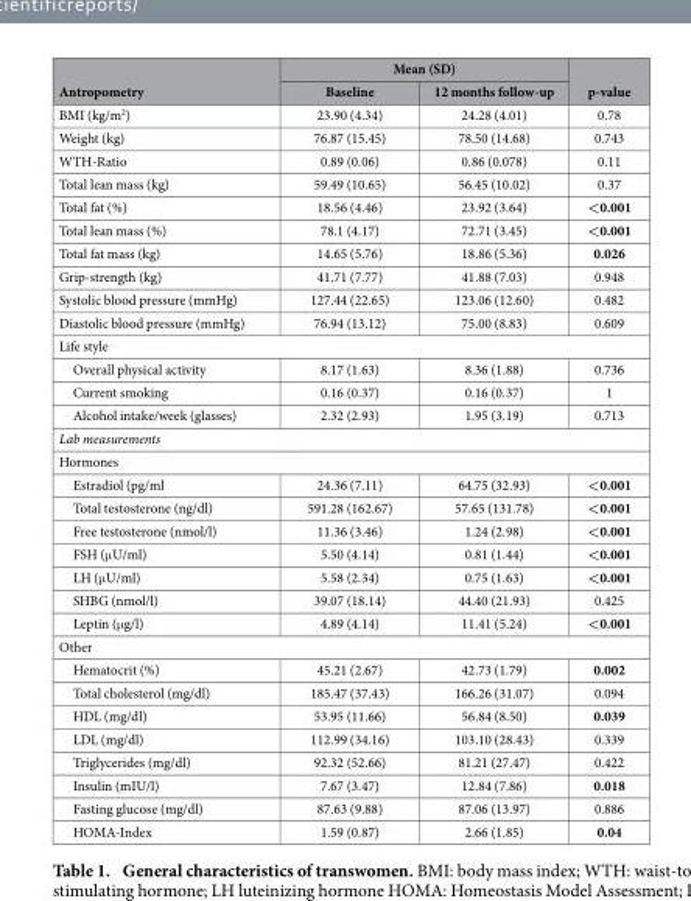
<table><thead><tr><td rowspan="2">Antropometry</td><td colspan="2">Mean (SD)</td><td rowspan="2">p-value</td></tr><tr><td>Baseline</td><td>12 months follow-up</td></tr></thead><tbody><tr><td>BMI (kg/m<sup>2</sup>)</td><td>23.90 (4.34)</td><td>24.28 (4.01)</td><td>0.78</td></tr><tr><td>Weight (kg)</td><td>76.87 (15.45)</td><td>78.50 (14.68)</td><td>0.743</td></tr><tr><td>WTH-Ratio</td><td>0.89 (0.06)</td><td>0.86 (0.078)</td><td>0.11</td></tr><tr><td>Total lean mass (kg)</td><td>59.49 (10.65)</td><td>56.45 (10.02)</td><td>0.37</td></tr><tr><td>Total fat (%)</td><td>18.56 (4.46)</td><td>23.92 (3.64)</td><td>&lt; 0.001</td></tr><tr><td>Total lean mass (%)</td><td>78.1 (4.17)</td><td>72.71 (3.45)</td><td>&lt; 0.001</td></tr><tr><td>Total fat mass (kg)</td><td>14.65 (5.76)</td><td>18.86 (5.36)</td><td>0.026</td></tr><tr><td>Grip-strength (kg)</td><td>41.71 (7.77)</td><td>41.88 (7.03)</td><td>0.948</td></tr><tr><td>Systolic blood pressure (mmHg)</td><td>127.44 (22.65)</td><td>123.06 (12.60)</td><td>0.482</td></tr><tr><td>Diastolic blood pressure (mmHg)</td><td>76.94 (13.12)</td><td>75.00 (8.83)</td><td>0.609</td></tr><tr><td colspan="4">Life style</td></tr><tr><td>Overall physical activity</td><td>8.17 (1.63)</td><td>8.36 (1.88)</td><td>0.736</td></tr><tr><td>Current smoking</td><td>0.16 (0.37)</td><td>0.16 (0.37)</td><td>1</td></tr><tr><td>Alcohol intake/week (glasses)</td><td>2.32 (2.93)</td><td>1.95 (3.19)</td><td>0.713</td></tr><tr><td colspan="4">Lab measurements</td></tr><tr><td colspan="4">Hormones</td></tr><tr><td>Estradiol (pg/ml</td><td>24.36 (7.11)</td><td>64.75 (32.93)</td><td>&lt; 0.001</td></tr><tr><td>Total testosterone (ng/dl)</td><td>591.28 (162.67)</td><td>57.65 (131.78)</td><td>&lt; 0.001</td></tr><tr><td>Free testosterone (nmol/l)</td><td>11.36 (3.46)</td><td>1.24 (2.98)</td><td>&lt; 0.001</td></tr><tr><td>FSH (μ U/ml)</td><td>5.50 (4.14)</td><td>0.81 (1.44)</td><td>&lt; 0.001</td></tr><tr><td>LH (μ U/ml)</td><td>5.58 (2.34)</td><td>0.75 (1.63)</td><td>&lt; 0.001</td></tr><tr><td>SHBG (nmol/l)</td><td>39.07 (18.14)</td><td>44.40 (21.93)</td><td>0.425</td></tr><tr><td>Leptin (μ g/l)</td><td>4.89 (4.14)</td><td>11.41 (5.24)</td><td>&lt; 0.001</td></tr><tr><td colspan="4">Other</td></tr><tr><td>Hematocrit (%)</td><td>45.21 (2.67)</td><td>42.73 (1.79)</td><td>0.002</td></tr><tr><td>Total cholesterol (mg/dl)</td><td>185.47 (37.43)</td><td>166.26 (31.07)</td><td>0.094</td></tr><tr><td>HDL (mg/dl)</td><td>53.95 (11.66)</td><td>56.84 (8.50)</td><td>0.039</td></tr><tr><td>LDL (mg/dl)</td><td>112.99 (34.16)</td><td>103.10 (28.43)</td><td>0.339</td></tr><tr><td>Triglycerides (mg/dl)</td><td>92.32 (52.66)</td><td>81.21 (27.47)</td><td>0.422</td></tr><tr><td>Insulin (mIU/l)</td><td>7.67 (3.47)</td><td>12.84 (7.86)</td><td>0.018</td></tr><tr><td>Fasting glucose (mg/dl)</td><td>87.63 (9.88)</td><td>87.06 (13.97)</td><td>0.886</td></tr><tr><td>HOMA-Index</td><td>1.59 (0.87)</td><td>2.66 (1.85)</td><td>0.04</td></tr></tbody></table>